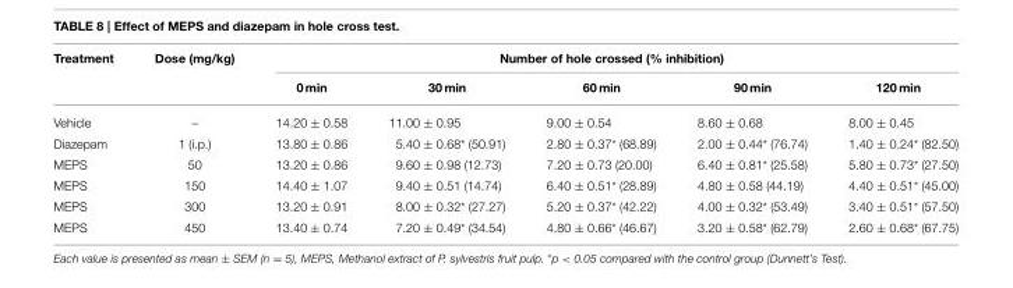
<table><thead><tr><td rowspan="2">Treatment</td><td rowspan="2">Dose (mg/kg)</td><td colspan="5">Number of hole crossed (% inhibition)</td></tr><tr><td>0 min</td><td>30 min</td><td>60 min</td><td>90 min</td><td>120 min</td></tr></thead><tbody><tr><td>Vehicle</td><td>–</td><td>14.20 ± 0.58</td><td>11.00 ± 0.95</td><td>9.00 ± 0.54</td><td>8.60 ± 0.68</td><td>8.00 ± 0.45</td></tr><tr><td>Diazepam</td><td>1 (i.p.)</td><td>13.80 ± 0.86</td><td>5.40 ± 0.68* (50.91)</td><td>2.80 ± 0.37* (68.89)</td><td>2.00 ± 0.44* (76.74)</td><td>1.40 ± 0.24* (82.50)</td></tr><tr><td>MEPS</td><td>50</td><td>13.20 ± 0.86</td><td>9.60 ± 0.98 (12.73)</td><td>7.20 ± 0.73 (20.00)</td><td>6.40 ± 0.81* (25.58)</td><td>5.80 ± 0.73* (27.50)</td></tr><tr><td>MEPS</td><td>150</td><td>14.40 ± 1.07</td><td>9.40 ± 0.51 (14.74)</td><td>6.40 ± 0.51* (28.89)</td><td>4.80 ± 0.58 (44.19)</td><td>4.40 ± 0.51* (45.00)</td></tr><tr><td>MEPS</td><td>300</td><td>13.20 ± 0.91</td><td>8.00 ± 0.32* (27.27)</td><td>5.20 ± 0.37* (42.22)</td><td>4.00 ± 0.32* (53.49)</td><td>3.40 ± 0.51* (57.50)</td></tr><tr><td>MEPS</td><td>450</td><td>13.40 ± 0.74</td><td>7.20 ± 0.49* (34.54)</td><td>4.80 ± 0.66* (46.67)</td><td>3.20 ± 0.58* (62.79)</td><td>2.60 ± 0.68* (67.75)</td></tr></tbody></table>